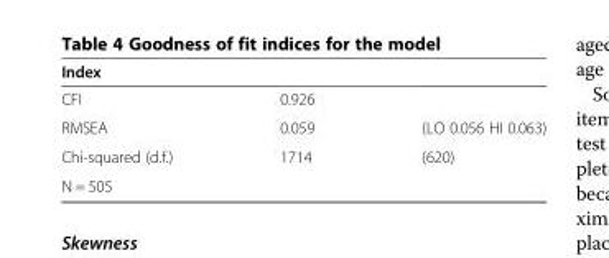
<table><thead><tr><td>Index</td><td></td><td></td></tr></thead><tbody><tr><td>CFI</td><td>0.926</td><td></td></tr><tr><td>RMSEA</td><td>0.059</td><td>(LO 0.056 HI 0.063)</td></tr><tr><td>Chi-squared (d.f.)</td><td>1714</td><td>(620)</td></tr><tr><td>N = 505</td><td></td><td></td></tr></tbody></table>